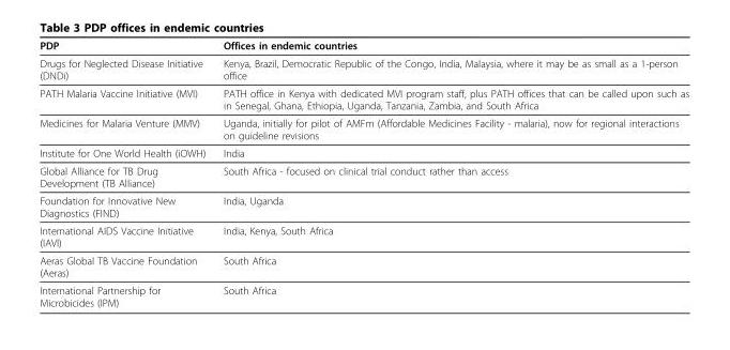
<table><thead><tr><td>PDP</td><td>Offices in endemic countries</td></tr></thead><tbody><tr><td>Drugs for Neglected Disease Initiative (DNDi)</td><td>Kenya, Brazil, Democratic Republic of the Congo, India, Malaysia, where it may be as small as a 1-person office</td></tr><tr><td>PATH Malaria Vaccine Initiative (MVI)</td><td>PATH office in Kenya with dedicated MVI program staff, plus PATH offices that can be called upon such as in Senegal, Ghana, Ethiopia, Uganda, Tanzania, Zambia, and South Africa</td></tr><tr><td>Medicines for Malaria Venture (MMV)</td><td>Uganda, initially for pilot of AMFm (Affordable Medicines Facility - malaria), now for regional interactions on guideline revisions</td></tr><tr><td>Institute for One World Health (iOWH)</td><td>India</td></tr><tr><td>Global Alliance for TB Drug Development (TB Alliance)</td><td>South Africa - focused on clinical trial conduct rather than access</td></tr><tr><td>Foundation for Innovative New Diagnostics (FIND)</td><td>India, Uganda</td></tr><tr><td>International AIDS Vaccine Initiative (IAVI)</td><td>India, Kenya, South Africa</td></tr><tr><td>Aeras Global TB Vaccine Foundation (Aeras)</td><td>South Africa</td></tr><tr><td>International Partnership for Microbicides (IPM)</td><td>South Africa</td></tr></tbody></table>